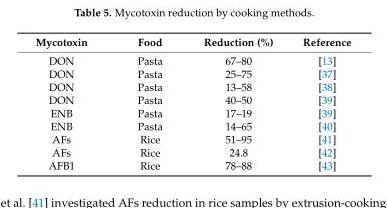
<table><thead><tr><td>Mycotoxin</td><td>Food</td><td>Reduction (%)</td><td>Reference</td></tr></thead><tbody><tr><td>DON</td><td>Pasta</td><td>67–80</td><td>[13]</td></tr><tr><td>DON</td><td>Pasta</td><td>25–75</td><td>[37]</td></tr><tr><td>DON</td><td>Pasta</td><td>13–58</td><td>[38]</td></tr><tr><td>DON</td><td>Pasta</td><td>40–50</td><td>[39]</td></tr><tr><td>ENB</td><td>Pasta</td><td>17–19</td><td>[39]</td></tr><tr><td>ENB</td><td>Pasta</td><td>14–65</td><td>[40]</td></tr><tr><td>AFs</td><td>Rice</td><td>51–95</td><td>[41]</td></tr><tr><td>AFs</td><td>Rice</td><td>24.8</td><td>[42]</td></tr><tr><td>AFB1</td><td>Rice</td><td>78–88</td><td>[43]</td></tr></tbody></table>